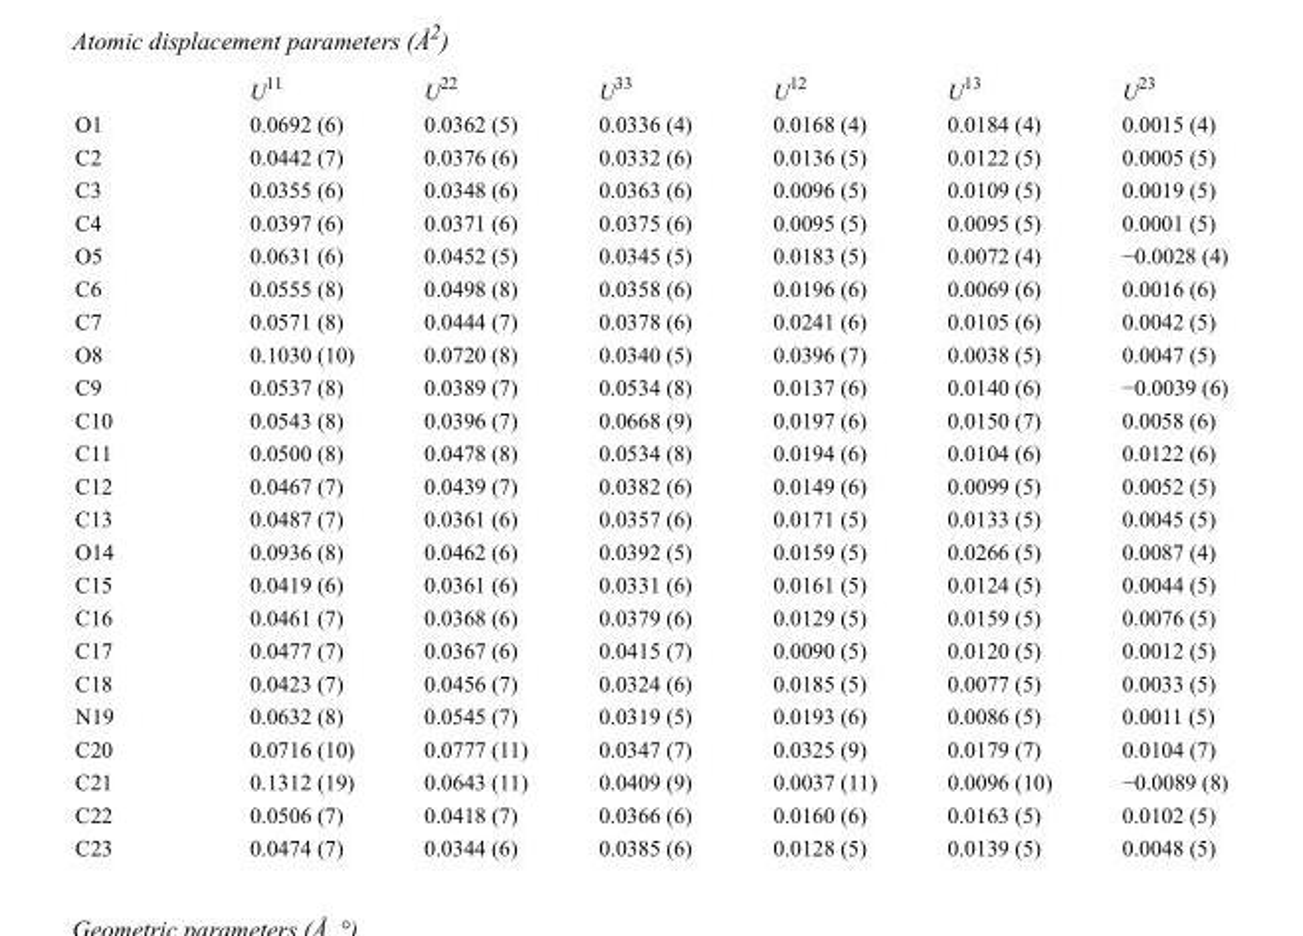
<table><thead><tr><td></td><td>U<sup>11</sup></td><td>U<sup>22</sup></td><td>U<sup>33</sup></td><td>U<sup>12</sup></td><td>U<sup>13</sup></td><td>U<sup>23</sup></td></tr></thead><tbody><tr><td>O1</td><td>0.0692 (6)</td><td>0.0362 (5)</td><td>0.0336 (4)</td><td>0.0168 (4)</td><td>0.0184 (4)</td><td>0.0015 (4)</td></tr><tr><td>C2</td><td>0.0442 (7)</td><td>0.0376 (6)</td><td>0.0332 (6)</td><td>0.0136 (5)</td><td>0.0122 (5)</td><td>0.0005 (5)</td></tr><tr><td>C3</td><td>0.0355 (6)</td><td>0.0348 (6)</td><td>0.0363 (6)</td><td>0.0096 (5)</td><td>0.0109 (5)</td><td>0.0019 (5)</td></tr><tr><td>C4</td><td>0.0397 (6)</td><td>0.0371 (6)</td><td>0.0375 (6)</td><td>0.0095 (5)</td><td>0.0095 (5)</td><td>0.0001 (5)</td></tr><tr><td>O5</td><td>0.0631 (6)</td><td>0.0452 (5)</td><td>0.0345 (5)</td><td>0.0183 (5)</td><td>0.0072 (4)</td><td>−0.0028 (4)</td></tr><tr><td>C6</td><td>0.0555 (8)</td><td>0.0498 (8)</td><td>0.0358 (6)</td><td>0.0196 (6)</td><td>0.0069 (6)</td><td>0.0016 (6)</td></tr><tr><td>C7</td><td>0.0571 (8)</td><td>0.0444 (7)</td><td>0.0378 (6)</td><td>0.0241 (6)</td><td>0.0105 (6)</td><td>0.0042 (5)</td></tr><tr><td>O8</td><td>0.1030 (10)</td><td>0.0720 (8)</td><td>0.0340 (5)</td><td>0.0396 (7)</td><td>0.0038 (5)</td><td>0.0047 (5)</td></tr><tr><td>C9</td><td>0.0537 (8)</td><td>0.0389 (7)</td><td>0.0534 (8)</td><td>0.0137 (6)</td><td>0.0140 (6)</td><td>−0.0039 (6)</td></tr><tr><td>C10</td><td>0.0543 (8)</td><td>0.0396 (7)</td><td>0.0668 (9)</td><td>0.0197 (6)</td><td>0.0150 (7)</td><td>0.0058 (6)</td></tr><tr><td>C11</td><td>0.0500 (8)</td><td>0.0478 (8)</td><td>0.0534 (8)</td><td>0.0194 (6)</td><td>0.0104 (6)</td><td>0.0122 (6)</td></tr><tr><td>C12</td><td>0.0467 (7)</td><td>0.0439 (7)</td><td>0.0382 (6)</td><td>0.0149 (6)</td><td>0.0099 (5)</td><td>0.0052 (5)</td></tr><tr><td>C13</td><td>0.0487 (7)</td><td>0.0361 (6)</td><td>0.0357 (6)</td><td>0.0171 (5)</td><td>0.0133 (5)</td><td>0.0045 (5)</td></tr><tr><td>O14</td><td>0.0936 (8)</td><td>0.0462 (6)</td><td>0.0392 (5)</td><td>0.0159 (5)</td><td>0.0266 (5)</td><td>0.0087 (4)</td></tr><tr><td>C15</td><td>0.0419 (6)</td><td>0.0361 (6)</td><td>0.0331 (6)</td><td>0.0161 (5)</td><td>0.0124 (5)</td><td>0.0044 (5)</td></tr><tr><td>C16</td><td>0.0461 (7)</td><td>0.0368 (6)</td><td>0.0379 (6)</td><td>0.0129 (5)</td><td>0.0159 (5)</td><td>0.0076 (5)</td></tr><tr><td>C17</td><td>0.0477 (7)</td><td>0.0367 (6)</td><td>0.0415 (7)</td><td>0.0090 (5)</td><td>0.0120 (5)</td><td>0.0012 (5)</td></tr><tr><td>C18</td><td>0.0423 (7)</td><td>0.0456 (7)</td><td>0.0324 (6)</td><td>0.0185 (5)</td><td>0.0077 (5)</td><td>0.0033 (5)</td></tr><tr><td>N19</td><td>0.0632 (8)</td><td>0.0545 (7)</td><td>0.0319 (5)</td><td>0.0193 (6)</td><td>0.0086 (5)</td><td>0.0011 (5)</td></tr><tr><td>C20</td><td>0.0716 (10)</td><td>0.0777 (11)</td><td>0.0347 (7)</td><td>0.0325 (9)</td><td>0.0179 (7)</td><td>0.0104 (7)</td></tr><tr><td>C21</td><td>0.1312 (19)</td><td>0.0643 (11)</td><td>0.0409 (9)</td><td>0.0037 (11)</td><td>0.0096 (10)</td><td>−0.0089 (8)</td></tr><tr><td>C22</td><td>0.0506 (7)</td><td>0.0418 (7)</td><td>0.0366 (6)</td><td>0.0160 (6)</td><td>0.0163 (5)</td><td>0.0102 (5)</td></tr><tr><td>C23</td><td>0.0474 (7)</td><td>0.0344 (6)</td><td>0.0385 (6)</td><td>0.0128 (5)</td><td>0.0139 (5)</td><td>0.0048 (5)</td></tr></tbody></table>